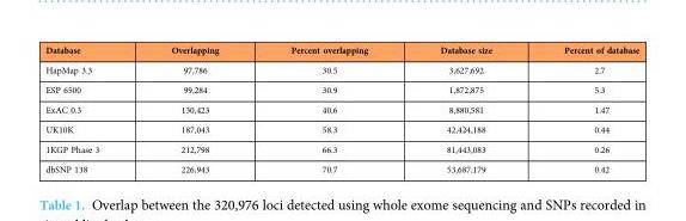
<table><thead><tr><td>Database</td><td>Overlapping</td><td>Percent overlapping</td><td>Database size</td><td>Percent of database</td></tr></thead><tbody><tr><td>HapMap 3.3</td><td>97,786</td><td>30.5</td><td>3,627,692</td><td>2.7</td></tr><tr><td>ESP 6500</td><td>99,284</td><td>30.9</td><td>1,872,875</td><td>5.3</td></tr><tr><td>ExAC 0.3</td><td>130,423</td><td>40.6</td><td>8,880,581</td><td>1.47</td></tr><tr><td>UK10K</td><td>187,043</td><td>58.3</td><td>42,424,188</td><td>0.44</td></tr><tr><td>1KGP Phase 3</td><td>212,798</td><td>66.3</td><td>81,443,083</td><td>0.26</td></tr><tr><td>dbSNP 138</td><td>226,943</td><td>70.7</td><td>53,687,179</td><td>0.42</td></tr></tbody></table>